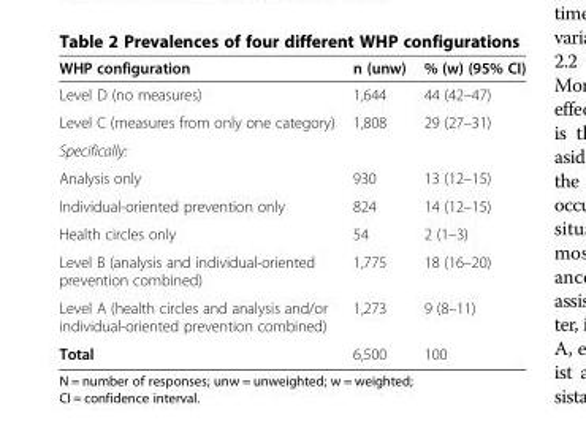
<table><thead><tr><td>WHP configuration</td><td>n (unw)</td><td>% (w) (95% CI)</td></tr></thead><tbody><tr><td>Level D (no measures)</td><td>1,644</td><td>44 (42–47)</td></tr><tr><td>Level C (measures from only one category)</td><td>1,808</td><td>29 (27–31)</td></tr><tr><td colspan="3">Specifically:</td></tr><tr><td>Analysis only</td><td>930</td><td>13 (12–15)</td></tr><tr><td>Individual-oriented prevention only</td><td>824</td><td>14 (12–15)</td></tr><tr><td>Health circles only</td><td>54</td><td>2 (1–3)</td></tr><tr><td>Level B (analysis and individual-oriented prevention combined)</td><td>1,775</td><td>18 (16–20)</td></tr><tr><td>Level A (health circles and analysis and/or individual-oriented prevention combined)</td><td>1,273</td><td>9 (8–11)</td></tr><tr><td>Total</td><td>6,500</td><td>100</td></tr></tbody></table>